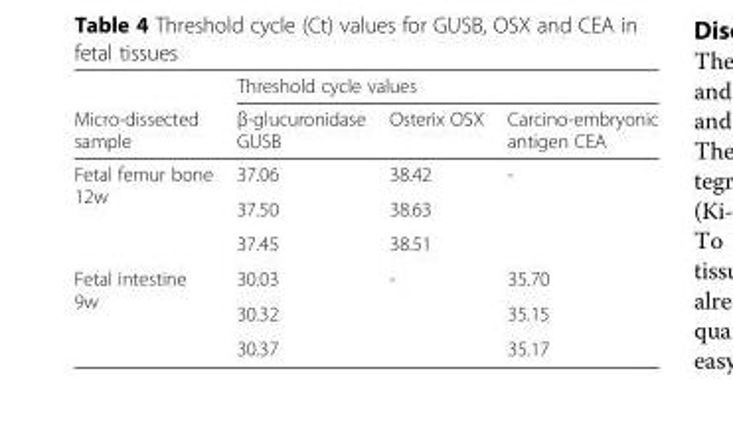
<table><thead><tr><td rowspan="2">Micro-dissected sample</td><td colspan="3">Threshold cycle values</td></tr><tr><td>β-glucuronidase GUSB</td><td>Osterix OSX</td><td>Carcino-embryonic antigen CEA</td></tr></thead><tbody><tr><td rowspan="3">Fetal femur bone 12w</td><td>37.06</td><td>38.42</td><td>-</td></tr><tr><td>37.50</td><td>38.63</td><td></td></tr><tr><td>37.45</td><td>38.51</td><td></td></tr><tr><td rowspan="3">Fetal intestine 9w</td><td>30.03</td><td>-</td><td>35.70</td></tr><tr><td>30.32</td><td></td><td>35.15</td></tr><tr><td>30.37</td><td></td><td>35.17</td></tr></tbody></table>